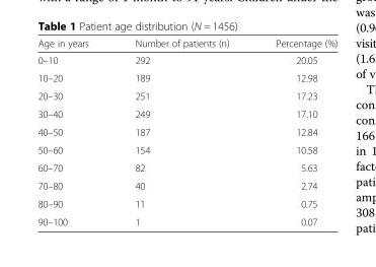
<table><thead><tr><td>Age in years</td><td>Number of patients (n)</td><td>Percentage (%)</td></tr></thead><tbody><tr><td>0–10</td><td>292</td><td>20.05</td></tr><tr><td>10–20</td><td>189</td><td>12.98</td></tr><tr><td>20–30</td><td>251</td><td>17.23</td></tr><tr><td>30–40</td><td>249</td><td>17.10</td></tr><tr><td>40–50</td><td>187</td><td>12.84</td></tr><tr><td>50–60</td><td>154</td><td>10.58</td></tr><tr><td>60–70</td><td>82</td><td>5.63</td></tr><tr><td>70–80</td><td>40</td><td>2.74</td></tr><tr><td>80–90</td><td>11</td><td>0.75</td></tr><tr><td>90–100</td><td>1</td><td>0.07</td></tr></tbody></table>